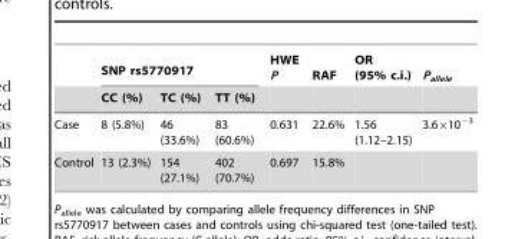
<table><thead><tr><td rowspan="2"></td><td colspan="3">SNP rs5770917</td><td rowspan="2">HWE P</td><td rowspan="2">RAF</td><td rowspan="2">OR (95% c.i.)</td><td rowspan="2">P<sub>allele</sub></td></tr><tr><td>CC (%)</td><td>TC (%)</td><td>TT (%)</td></tr></thead><tbody><tr><td>Case</td><td>8 (5.8%)</td><td>46 (33.6%)</td><td>83 (60.6%)</td><td>0.631</td><td>22.6%</td><td>1.56 (1.12–2.15)</td><td>3.6×10<sup>−3</sup></td></tr><tr><td>Control</td><td>13 (2.3%)</td><td>154 (27.1%)</td><td>402 (70.7%)</td><td>0.697</td><td>15.8%</td><td></td><td></td></tr></tbody></table>